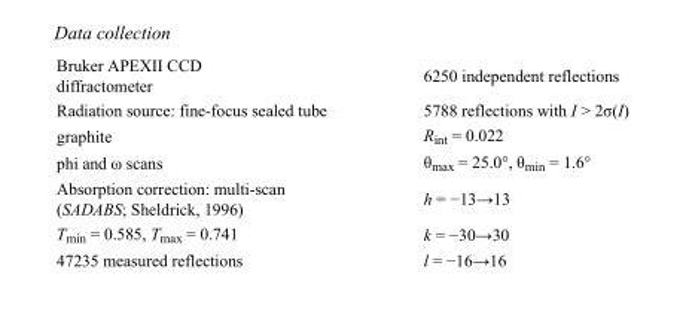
<table><tbody><tr><td>Bruker APEXII CCD diffractometer</td><td>6250 independent reflections</td></tr><tr><td>Radiation source: fine-focus sealed tube</td><td>5788 reflections with I &gt; 2σ(I)</td></tr><tr><td>graphite</td><td>R<sub>int</sub> = 0.022</td></tr><tr><td>phi and ω scans</td><td>θ<sub>max</sub> = 25.0°, θ<sub>min</sub> = 1.6°</td></tr><tr><td>Absorption correction: multi-scan (SADABS; Sheldrick, 1996)</td><td>h = −13→13</td></tr><tr><td>T<sub>min</sub> = 0.585, T<sub>max</sub> = 0.741</td><td>k = −30→30</td></tr><tr><td>47235 measured reflections</td><td>l = −16→16</td></tr></tbody></table>